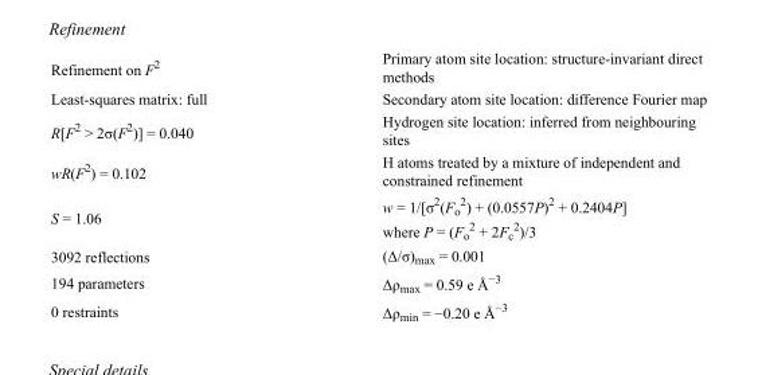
<table><tbody><tr><td>Refinement on F<sup>2</sup></td><td>Primary atom site location: structure-invariant direct methods</td></tr><tr><td>Least-squares matrix: full</td><td>Secondary atom site location: difference Fourier map</td></tr><tr><td>R[F<sup>2</sup> &gt; 2σ(F<sup>2</sup>)] = 0.040</td><td>Hydrogen site location: inferred from neighbouring sites</td></tr><tr><td>wR(F<sup>2</sup>) = 0.102</td><td>H atoms treated by a mixture of independent and constrained refinement</td></tr><tr><td>S = 1.06</td><td>w = 1/[σ<sup>2</sup>(F<sub>o</sub> <sup>2</sup>) + (0.0557P)<sup>2</sup> + 0.2404P] where P = (F<sub>o</sub> <sup>2</sup> + 2F<sub>c</sub> <sup>2</sup>)/3</td></tr><tr><td>3092 reflections</td><td>(Δ/σ)<sub>max</sub> = 0.001</td></tr><tr><td>194 parameters</td><td>Δρ<sub>max</sub> = 0.59 e Å<sup>−3</sup></td></tr><tr><td>0 restraints</td><td>Δρ<sub>min</sub> = −0.20 e Å<sup>−3</sup></td></tr></tbody></table>